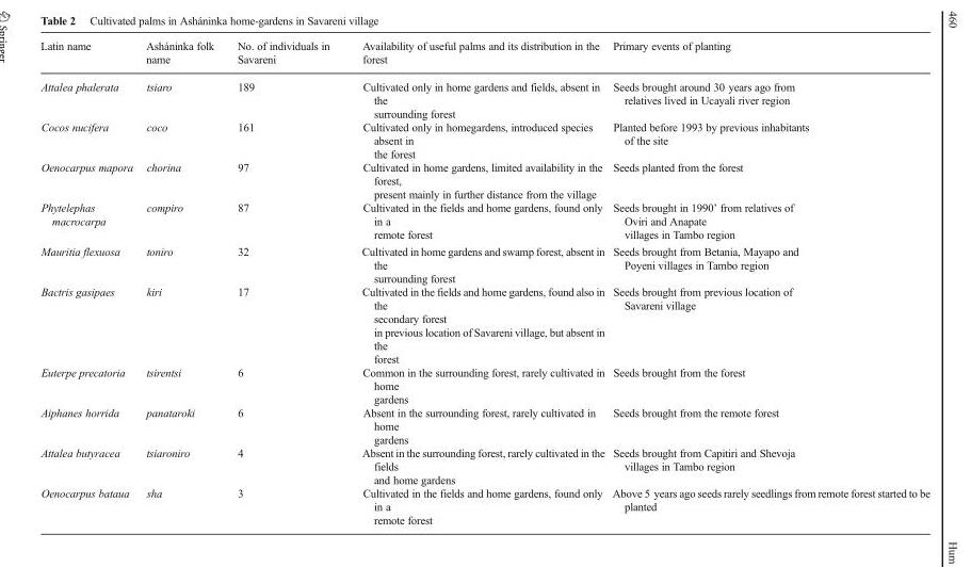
<table><thead><tr><td>Latin name</td><td>Asháninka folk name</td><td>No. of individuals in Savareni</td><td>Availability of useful palms and its distribution in the forest</td><td>Primary events of planting</td></tr></thead><tbody><tr><td>Attalea phalerata</td><td>tsiaro</td><td>189</td><td>Cultivated only in home gardens and fields, absent in the surrounding forest</td><td>Seeds brought around 30 years ago from relatives lived in Ucayali river region</td></tr><tr><td>Cocos nucifera</td><td>coco</td><td>161</td><td>Cultivated only in homegardens, introduced species absent in the forest</td><td>Planted before 1993 by previous inhabitants of the site</td></tr><tr><td>Oenocarpus mapora</td><td>chorina</td><td>97</td><td>Cultivated in home gardens, limited availability in the forest, present mainly in further distance from the village</td><td>Seeds planted from the forest</td></tr><tr><td>Phytelephas macrocarpa</td><td>compiro</td><td>87</td><td>Cultivated in the fields and home gardens, found only in a remote forest</td><td>Seeds brought in 1990’ from relatives of Oviri and Anapate villages in Tambo region</td></tr><tr><td>Mauritia flexuosa</td><td>toniro</td><td>32</td><td>Cultivated in home gardens and swamp forest, absent in the surrounding forest</td><td>Seeds brought from Betania, Mayapo and Poyeni villages in Tambo region</td></tr><tr><td>Bactris gasipaes</td><td>kiri</td><td>17</td><td>Cultivated in the fields and home gardens, found also in the secondary forest in previous location of Savareni village, but absent in the forest</td><td>Seeds brought from previous location of Savareni village</td></tr><tr><td>Euterpe precatoria</td><td>tsirentsi</td><td>6</td><td>Common in the surrounding forest, rarely cultivated in home gardens</td><td>Seeds brought from the forest</td></tr><tr><td>Aiphanes horrida</td><td>panataroki</td><td>6</td><td>Absent in the surrounding forest, rarely cultivated in home gardens</td><td>Seeds brought from the remote forest</td></tr><tr><td>Attalea butyracea</td><td>tsiaroniro</td><td>4</td><td>Absent in the surrounding forest, rarely cultivated in the fields and home gardens</td><td>Seeds brought from Capitiri and Shevoja villages in Tambo region</td></tr><tr><td>Oenocarpus bataua</td><td>sha</td><td>3</td><td>Cultivated in the fields and home gardens, found only in a remote forest</td><td>Above 5 years ago seeds rarely seedlings from remote forest started to be planted</td></tr></tbody></table>